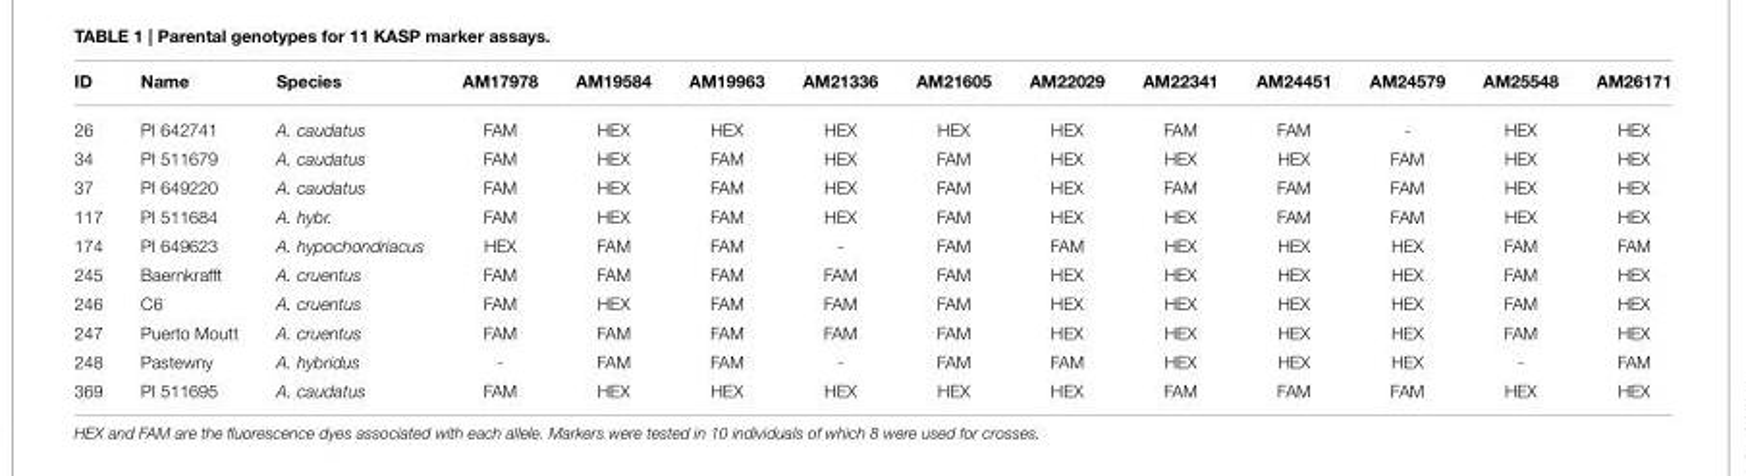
<table><thead><tr><td>ID</td><td>Name</td><td>Species</td><td>AM17978</td><td>AM19584</td><td>AM19963</td><td>AM21336</td><td>AM21605</td><td>AM22029</td><td>AM22341</td><td>AM24451</td><td>AM24579</td><td>AM25548</td><td>AM26171</td></tr></thead><tbody><tr><td>26</td><td>PI 642741</td><td>A. caudatus</td><td>FAM</td><td>HEX</td><td>HEX</td><td>HEX</td><td>HEX</td><td>HEX</td><td>FAM</td><td>FAM</td><td>-</td><td>HEX</td><td>HEX</td></tr><tr><td>34</td><td>PI 511679</td><td>A. caudatus</td><td>FAM</td><td>HEX</td><td>FAM</td><td>HEX</td><td>FAM</td><td>HEX</td><td>HEX</td><td>HEX</td><td>FAM</td><td>HEX</td><td>HEX</td></tr><tr><td>37</td><td>PI 649220</td><td>A. caudatus</td><td>FAM</td><td>HEX</td><td>FAM</td><td>HEX</td><td>FAM</td><td>HEX</td><td>FAM</td><td>FAM</td><td>FAM</td><td>HEX</td><td>HEX</td></tr><tr><td>117</td><td>PI 511684</td><td>A. hybr.</td><td>FAM</td><td>HEX</td><td>FAM</td><td>HEX</td><td>FAM</td><td>HEX</td><td>HEX</td><td>FAM</td><td>FAM</td><td>HEX</td><td>HEX</td></tr><tr><td>174</td><td>PI 649623</td><td>A. hypochondriacus</td><td>HEX</td><td>FAM</td><td>FAM</td><td>-</td><td>FAM</td><td>FAM</td><td>HEX</td><td>HEX</td><td>HEX</td><td>FAM</td><td>FAM</td></tr><tr><td>245</td><td>Baernkrafft</td><td>A. cruentus</td><td>FAM</td><td>FAM</td><td>FAM</td><td>FAM</td><td>FAM</td><td>HEX</td><td>HEX</td><td>HEX</td><td>HEX</td><td>FAM</td><td>HEX</td></tr><tr><td>246</td><td>C6</td><td>A. cruentus</td><td>FAM</td><td>HEX</td><td>FAM</td><td>FAM</td><td>FAM</td><td>HEX</td><td>HEX</td><td>HEX</td><td>HEX</td><td>FAM</td><td>HEX</td></tr><tr><td>247</td><td>Puerto Moutt</td><td>A. cruentus</td><td>FAM</td><td>FAM</td><td>FAM</td><td>FAM</td><td>FAM</td><td>HEX</td><td>HEX</td><td>HEX</td><td>HEX</td><td>FAM</td><td>HEX</td></tr><tr><td>248</td><td>Pastewny</td><td>A. hybridus</td><td>-</td><td>FAM</td><td>FAM</td><td>-</td><td>FAM</td><td>FAM</td><td>HEX</td><td>HEX</td><td>HEX</td><td>-</td><td>FAM</td></tr><tr><td>369</td><td>PI 511695</td><td>A. caudatus</td><td>FAM</td><td>HEX</td><td>HEX</td><td>HEX</td><td>HEX</td><td>HEX</td><td>FAM</td><td>FAM</td><td>FAM</td><td>HEX</td><td>HEX</td></tr></tbody></table>